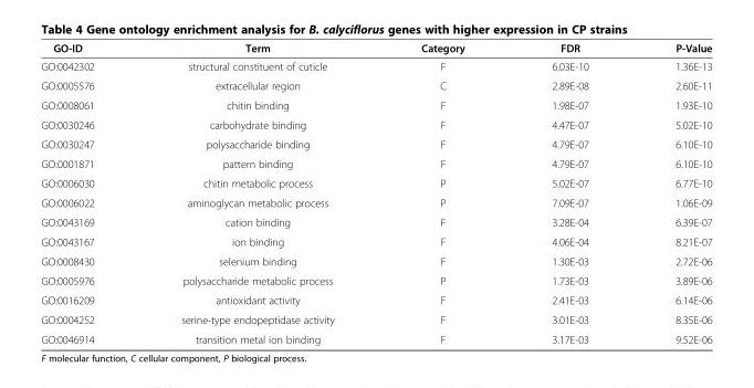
<table><thead><tr><td>GO-ID</td><td>Term</td><td>Category</td><td>FDR</td><td>P-Value</td></tr></thead><tbody><tr><td>GO:0042302</td><td>structural constituent of cuticle</td><td>F</td><td>6.03E-10</td><td>1.36E-13</td></tr><tr><td>GO:0005576</td><td>extracellular region</td><td>C</td><td>2.89E-08</td><td>2.60E-11</td></tr><tr><td>GO:0008061</td><td>chitin binding</td><td>F</td><td>1.98E-07</td><td>1.93E-10</td></tr><tr><td>GO:0030246</td><td>carbohydrate binding</td><td>F</td><td>4.47E-07</td><td>5.02E-10</td></tr><tr><td>GO:0030247</td><td>polysaccharide binding</td><td>F</td><td>4.79E-07</td><td>6.10E-10</td></tr><tr><td>GO:0001871</td><td>pattern binding</td><td>F</td><td>4.79E-07</td><td>6.10E-10</td></tr><tr><td>GO:0006030</td><td>chitin metabolic process</td><td>P</td><td>5.02E-07</td><td>6.77E-10</td></tr><tr><td>GO:0006022</td><td>aminoglycan metabolic process</td><td>P</td><td>7.09E-07</td><td>1.06E-09</td></tr><tr><td>GO:0043169</td><td>cation binding</td><td>F</td><td>3.28E-04</td><td>6.39E-07</td></tr><tr><td>GO:0043167</td><td>ion binding</td><td>F</td><td>4.06E-04</td><td>8.21E-07</td></tr><tr><td>GO:0008430</td><td>selenium binding</td><td>F</td><td>1.30E-03</td><td>2.72E-06</td></tr><tr><td>GO:0005976</td><td>polysaccharide metabolic process</td><td>P</td><td>1.73E-03</td><td>3.89E-06</td></tr><tr><td>GO:0016209</td><td>antioxidant activity</td><td>F</td><td>2.41E-03</td><td>6.14E-06</td></tr><tr><td>GO:0004252</td><td>serine-type endopeptidase activity</td><td>F</td><td>3.01E-03</td><td>8.35E-06</td></tr><tr><td>GO:0046914</td><td>transition metal ion binding</td><td>F</td><td>3.17E-03</td><td>9.52E-06</td></tr></tbody></table>